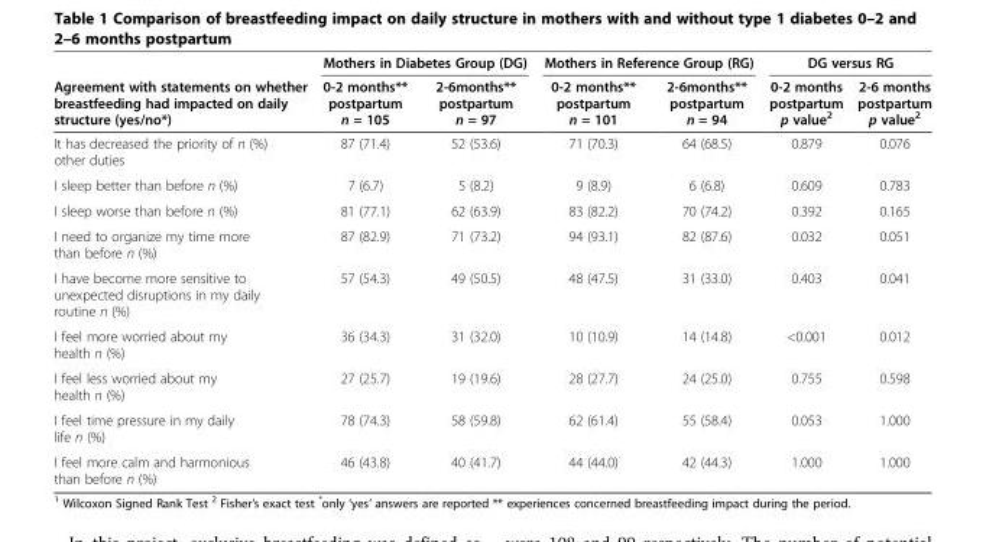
<table><thead><tr><td rowspan="2">Agreement with statements on whether breastfeeding had impacted on daily structure (yes/no*)</td><td colspan="2">Mothers in Diabetes Group (DG)</td><td colspan="2">Mothers in Reference Group (RG)</td><td colspan="2">DG versus RG</td></tr><tr><td>0-2 months** postpartum n = 105</td><td>2-6months** postpartum n = 97</td><td>0-2 months** postpartum n = 101</td><td>2-6months** postpartum n = 94</td><td>0-2 months postpartum p value<sup>2</sup></td><td>2-6 months postpartum p value<sup>2</sup></td></tr></thead><tbody><tr><td>It has decreased the priority of n (%) other duties</td><td>87 (71.4)</td><td>52 (53.6)</td><td>71 (70.3)</td><td>64 (68.5)</td><td>0.879</td><td>0.076</td></tr><tr><td>I sleep better than before n (%)</td><td>7 (6.7)</td><td>5 (8.2)</td><td>9 (8.9)</td><td>6 (6.8)</td><td>0.609</td><td>0.783</td></tr><tr><td>I sleep worse than before n (%)</td><td>81 (77.1)</td><td>62 (63.9)</td><td>83 (82.2)</td><td>70 (74.2)</td><td>0.392</td><td>0.165</td></tr><tr><td>I need to organize my time more than before n (%)</td><td>87 (82.9)</td><td>71 (73.2)</td><td>94 (93.1)</td><td>82 (87.6)</td><td>0.032</td><td>0.051</td></tr><tr><td>I have become more sensitive to unexpected disruptions in my daily routine n (%)</td><td>57 (54.3)</td><td>49 (50.5)</td><td>48 (47.5)</td><td>31 (33.0)</td><td>0.403</td><td>0.041</td></tr><tr><td>I feel more worried about my health n (%)</td><td>36 (34.3)</td><td>31 (32.0)</td><td>10 (10.9)</td><td>14 (14.8)</td><td>&lt;0.001</td><td>0.012</td></tr><tr><td>I feel less worried about my health n (%)</td><td>27 (25.7)</td><td>19 (19.6)</td><td>28 (27.7)</td><td>24 (25.0)</td><td>0.755</td><td>0.598</td></tr><tr><td>I feel time pressure in my daily life n (%)</td><td>78 (74.3)</td><td>58 (59.8)</td><td>62 (61.4)</td><td>55 (58.4)</td><td>0.053</td><td>1.000</td></tr><tr><td>I feel more calm and harmonious than before n (%)</td><td>46 (43.8)</td><td>40 (41.7)</td><td>44 (44.0)</td><td>42 (44.3)</td><td>1.000</td><td>1.000</td></tr></tbody></table>